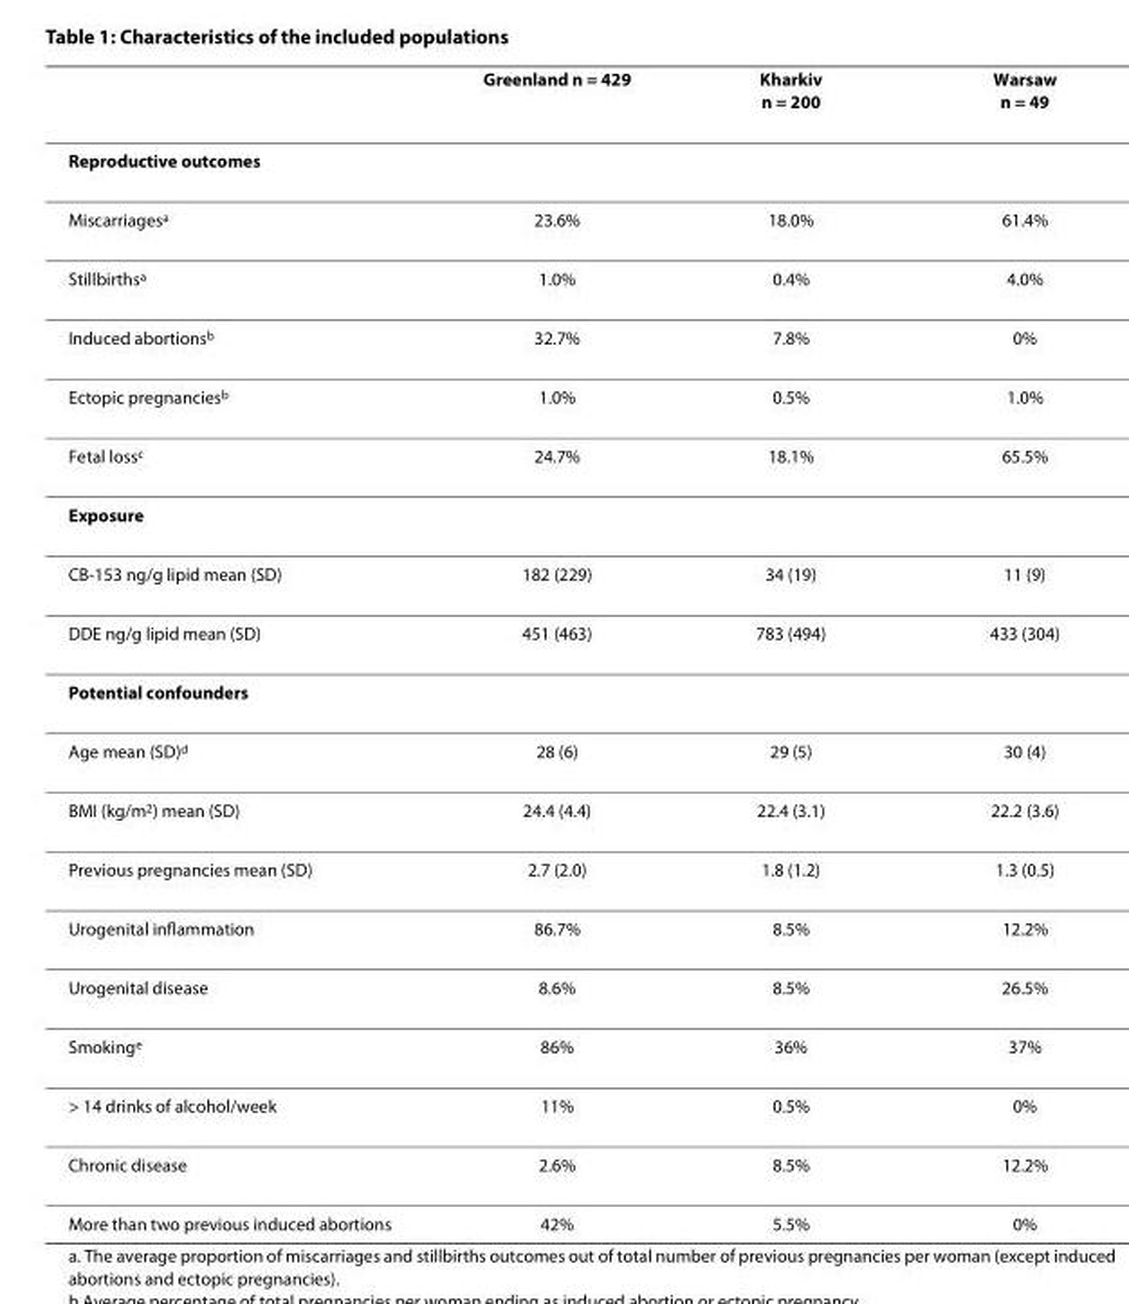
<table><thead><tr><td></td><td>Greenland n = 429</td><td>Kharkiv n = 200</td><td>Warsaw n = 49</td></tr></thead><tbody><tr><td colspan="4">Reproductive outcomes</td></tr><tr><td>Miscarriagesa</td><td>23.6%</td><td>18.0%</td><td>61.4%</td></tr><tr><td>Stillbirthsa</td><td>1.0%</td><td>0.4%</td><td>4.0%</td></tr><tr><td>Induced abortionsb</td><td>32.7%</td><td>7.8%</td><td>0%</td></tr><tr><td>Ectopic pregnanciesb</td><td>1.0%</td><td>0.5%</td><td>1.0%</td></tr><tr><td>Fetal lossc</td><td>24.7%</td><td>18.1%</td><td>65.5%</td></tr><tr><td colspan="4">Exposure</td></tr><tr><td>CB-153 ng/g lipid mean (SD)</td><td>182 (229)</td><td>34 (19)</td><td>11 (9)</td></tr><tr><td>DDE ng/g lipid mean (SD)</td><td>451 (463)</td><td>783 (494)</td><td>433 (304)</td></tr><tr><td colspan="4">Potential confounders</td></tr><tr><td>Age mean (SD)d</td><td>28 (6)</td><td>29 (5)</td><td>30 (4)</td></tr><tr><td>BMI (kg/m<sup>2</sup>) mean (SD)</td><td>24.4 (4.4)</td><td>22.4 (3.1)</td><td>22.2 (3.6)</td></tr><tr><td>Previous pregnancies mean (SD)</td><td>2.7 (2.0)</td><td>1.8 (1.2)</td><td>1.3 (0.5)</td></tr><tr><td>Urogenital inflammation</td><td>86.7%</td><td>8.5%</td><td>12.2%</td></tr><tr><td>Urogenital disease</td><td>8.6%</td><td>8.5%</td><td>26.5%</td></tr><tr><td>Smokinge</td><td>86%</td><td>36%</td><td>37%</td></tr><tr><td>&gt; 14 drinks of alcohol/week</td><td>11%</td><td>0.5%</td><td>0%</td></tr><tr><td>Chronic disease</td><td>2.6%</td><td>8.5%</td><td>12.2%</td></tr><tr><td>More than two previous induced abortions</td><td>42%</td><td>5.5%</td><td>0%</td></tr></tbody></table>